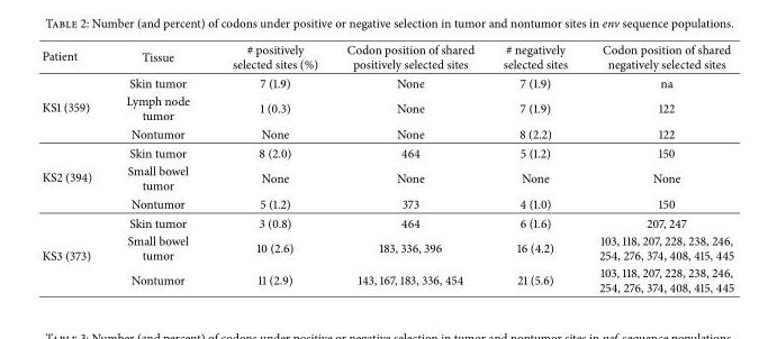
<table><thead><tr><td>Patient</td><td>Tissue</td><td># positively selected sites (%)</td><td>Codon position of shared positively selected sites</td><td># negatively selected sites</td><td>Codon position of shared negatively selected sites</td></tr></thead><tbody><tr><td rowspan="3">KS1 (359)</td><td>Skin tumor</td><td>7 (1.9)</td><td>None</td><td>7 (1.9)</td><td>na</td></tr><tr><td>Lymph node tumor</td><td>1 (0.3)</td><td>None</td><td>7 (1.9)</td><td>122</td></tr><tr><td>Nontumor</td><td>None</td><td>None</td><td>8 (2.2)</td><td>122</td></tr><tr><td rowspan="3">KS2 (394)</td><td>Skin tumor</td><td>8 (2.0)</td><td>464</td><td>5 (1.2)</td><td>150</td></tr><tr><td>Small bowel tumor</td><td>None</td><td>None</td><td>None</td><td>None</td></tr><tr><td>Nontumor</td><td>5 (1.2)</td><td>373</td><td>4 (1.0)</td><td>150</td></tr><tr><td rowspan="3">KS3 (373)</td><td>Skin tumor</td><td>3 (0.8)</td><td>464</td><td>6 (1.6)</td><td>207, 247</td></tr><tr><td>Small bowel tumor</td><td>10 (2.6)</td><td>183, 336, 396</td><td>16 (4.2)</td><td>103, 118, 207, 228, 238, 246, 254, 276, 374, 408, 415, 445</td></tr><tr><td>Nontumor</td><td>11 (2.9)</td><td>143, 167, 183, 336, 454</td><td>21 (5.6)</td><td>103, 118, 207, 228, 238, 246, 254, 276, 374, 408, 415, 445</td></tr></tbody></table>